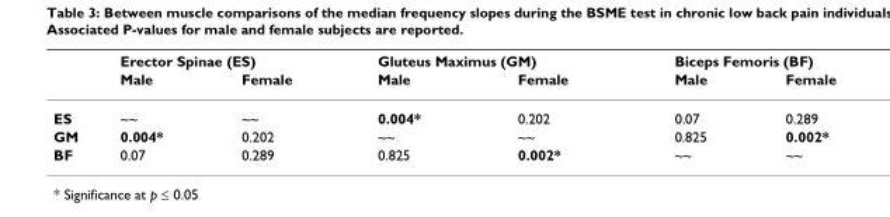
<table><thead><tr><td rowspan="2"></td><td colspan="2">Erector Spinae (ES)</td><td colspan="2">Gluteus Maximus (GM)</td><td colspan="2">Biceps Femoris (BF)</td></tr><tr><td>Male</td><td>Female</td><td>Male</td><td>Female</td><td>Male</td><td>Female</td></tr></thead><tbody><tr><td>ES</td><td>~~</td><td>~~</td><td>0.004*</td><td>0.202</td><td>0.07</td><td>0.289</td></tr><tr><td>GM</td><td>0.004*</td><td>0.202</td><td>~~</td><td>~~</td><td>0.825</td><td>0.002*</td></tr><tr><td>BF</td><td>0.07</td><td>0.289</td><td>0.825</td><td>0.002*</td><td>~~</td><td>~~</td></tr></tbody></table>